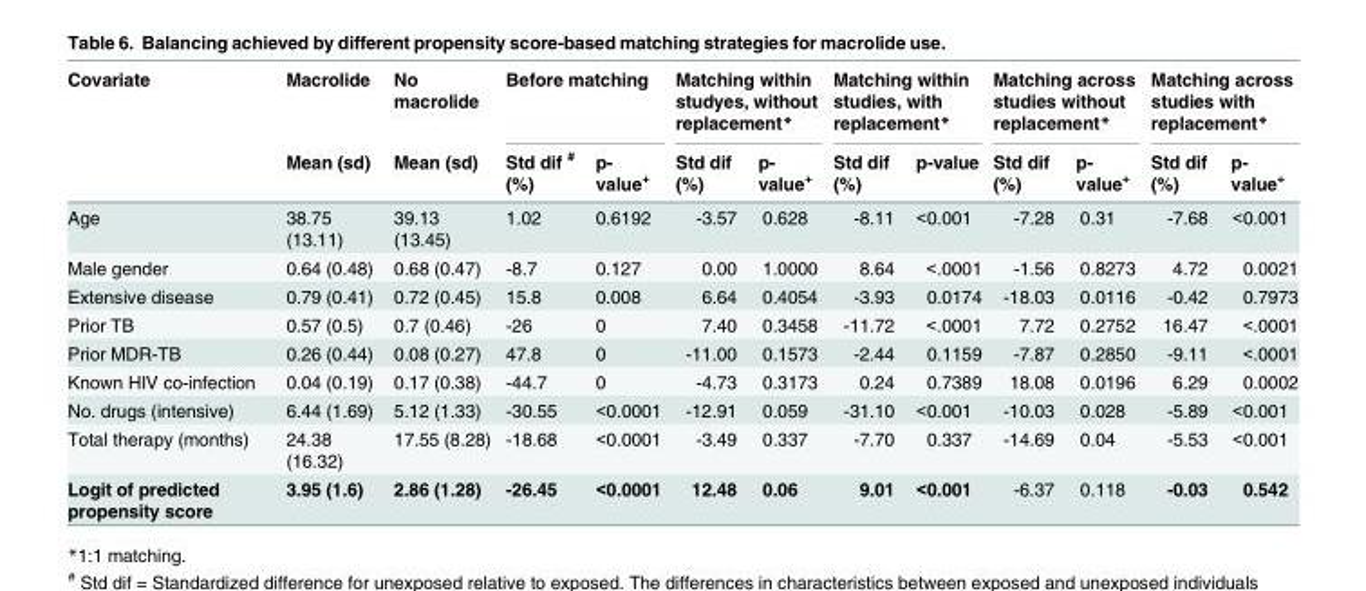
<table><thead><tr><td rowspan="2">Covariate</td><td rowspan="2">Macrolide Mean (sd)</td><td rowspan="2">No macrolide Mean (sd)</td><td colspan="2">Before matching</td><td colspan="2">Matching within studyes, without replacement*</td><td colspan="2">Matching within studies, with replacement*</td><td colspan="2">Matching across studies without replacement*</td><td colspan="2">Matching across studies with replacement*</td></tr><tr><td>Std dif <sup>#</sup> (%)</td><td>p- value<sup>+</sup></td><td>Std dif (%)</td><td>p- value<sup>+</sup></td><td>Std dif (%)</td><td>p-value</td><td>Std dif (%)</td><td>p- value<sup>+</sup></td><td>Std dif (%)</td><td>p- value<sup>+</sup></td></tr></thead><tbody><tr><td>Age</td><td>38.75 (13.11)</td><td>39.13 (13.45)</td><td>1.02</td><td>0.6192</td><td>-3.57</td><td>0.628</td><td>-8.11</td><td>&lt;0.001</td><td>-7.28</td><td>0.31</td><td>-7.68</td><td>&lt;0.001</td></tr><tr><td>Male gender</td><td>0.64 (0.48)</td><td>0.68 (0.47)</td><td>-8.7</td><td>0.127</td><td>0.00</td><td>1.0000</td><td>8.64</td><td>&lt;.0001</td><td>-1.56</td><td>0.8273</td><td>4.72</td><td>0.0021</td></tr><tr><td>Extensive disease</td><td>0.79 (0.41)</td><td>0.72 (0.45)</td><td>15.8</td><td>0.008</td><td>6.64</td><td>0.4054</td><td>-3.93</td><td>0.0174</td><td>-18.03</td><td>0.0116</td><td>-0.42</td><td>0.7973</td></tr><tr><td>Prior TB</td><td>0.57 (0.5)</td><td>0.7 (0.46)</td><td>-26</td><td>0</td><td>7.40</td><td>0.3458</td><td>-11.72</td><td>&lt;.0001</td><td>7.72</td><td>0.2752</td><td>16.47</td><td>&lt;.0001</td></tr><tr><td>Prior MDR-TB</td><td>0.26 (0.44)</td><td>0.08 (0.27)</td><td>47.8</td><td>0</td><td>-11.00</td><td>0.1573</td><td>-2.44</td><td>0.1159</td><td>-7.87</td><td>0.2850</td><td>-9.11</td><td>&lt;.0001</td></tr><tr><td>Known HIV co-infection</td><td>0.04 (0.19)</td><td>0.17 (0.38)</td><td>-44.7</td><td>0</td><td>-4.73</td><td>0.3173</td><td>0.24</td><td>0.7389</td><td>18.08</td><td>0.0196</td><td>6.29</td><td>0.0002</td></tr><tr><td>No. drugs (intensive)</td><td>6.44 (1.69)</td><td>5.12 (1.33)</td><td>-30.55</td><td>&lt;0.0001</td><td>-12.91</td><td>0.059</td><td>-31.10</td><td>&lt;0.001</td><td>-10.03</td><td>0.028</td><td>-5.89</td><td>&lt;0.001</td></tr><tr><td>Total therapy (months)</td><td>24.38 (16.32)</td><td>17.55 (8.28)</td><td>-18.68</td><td>&lt;0.0001</td><td>-3.49</td><td>0.337</td><td>-7.70</td><td>0.337</td><td>-14.69</td><td>0.04</td><td>-5.53</td><td>&lt;0.001</td></tr><tr><td>Logit of predicted propensity score</td><td>3.95 (1.6)</td><td>2.86 (1.28)</td><td>-26.45</td><td>&lt;0.0001</td><td>12.48</td><td>0.06</td><td>9.01</td><td>&lt;0.001</td><td>-6.37</td><td>0.118</td><td>-0.03</td><td>0.542</td></tr></tbody></table>